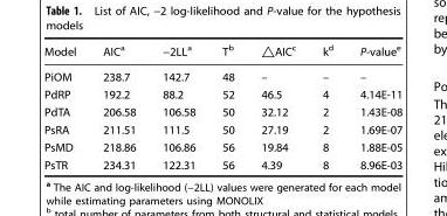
<table><thead><tr><td>Model</td><td>AIC<sup>a</sup></td><td>−2LL<sup>a</sup></td><td>T<sup>b</sup></td><td>△AIC<sup>c</sup></td><td>k<sup>d</sup></td><td>P-value<sup>e</sup></td></tr></thead><tbody><tr><td>PiOM</td><td>238.7</td><td>142.7</td><td>48</td><td>–</td><td>–</td><td>–</td></tr><tr><td>PdRP</td><td>192.2</td><td>88.2</td><td>52</td><td>46.5</td><td>4</td><td>4.14E-11</td></tr><tr><td>PdTA</td><td>206.58</td><td>106.58</td><td>50</td><td>32.12</td><td>2</td><td>1.43E-08</td></tr><tr><td>PsRA</td><td>211.51</td><td>111.5</td><td>50</td><td>27.19</td><td>2</td><td>1.69E-07</td></tr><tr><td>PsMD</td><td>218.86</td><td>106.86</td><td>56</td><td>19.84</td><td>8</td><td>1.88E-05</td></tr><tr><td>PsTR</td><td>234.31</td><td>122.31</td><td>56</td><td>4.39</td><td>8</td><td>8.96E-03</td></tr></tbody></table>